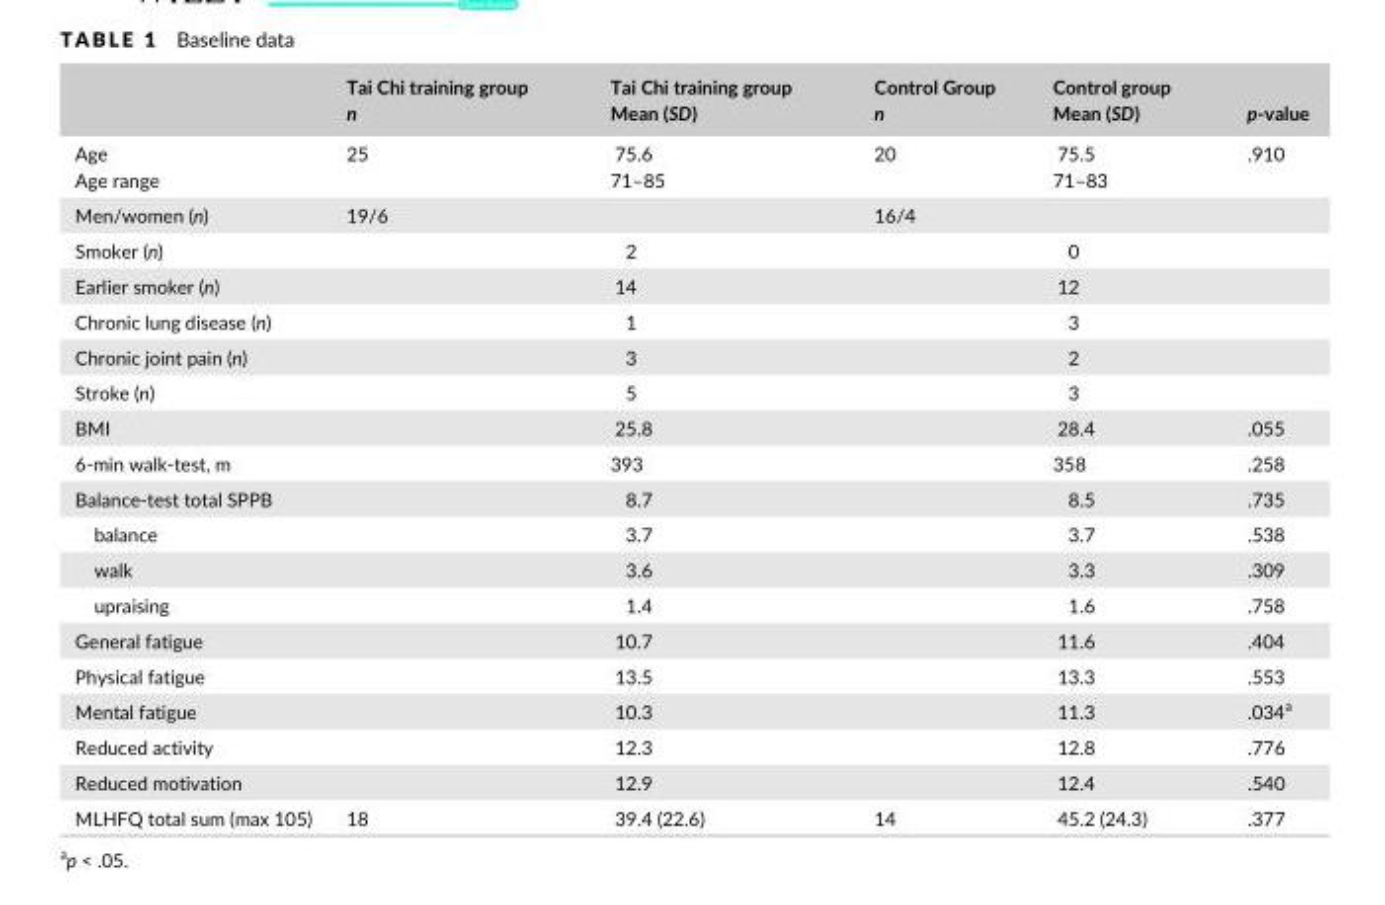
<table><thead><tr><td></td><td>Tai Chi training group n</td><td>Tai Chi training group Mean (SD)</td><td>Control Group n</td><td>Control group Mean (SD)</td><td>p- value</td></tr></thead><tbody><tr><td>Age Age range</td><td>25</td><td>75.6 71–85</td><td>20</td><td>75.5 71–83</td><td>.910</td></tr><tr><td>Men/women (n)</td><td>19/6</td><td></td><td>16/4</td><td></td><td></td></tr><tr><td>Smoker (n)</td><td></td><td>2</td><td></td><td>0</td><td></td></tr><tr><td>Earlier smoker (n)</td><td></td><td>14</td><td></td><td>12</td><td></td></tr><tr><td>Chronic lung disease (n)</td><td></td><td>1</td><td></td><td>3</td><td></td></tr><tr><td>Chronic joint pain (n)</td><td></td><td>3</td><td></td><td>2</td><td></td></tr><tr><td>Stroke (n)</td><td></td><td>5</td><td></td><td>3</td><td></td></tr><tr><td>BMI</td><td></td><td>25.8</td><td></td><td>28.4</td><td>.055</td></tr><tr><td>6- min walk- test, m</td><td></td><td>393</td><td></td><td>358</td><td>.258</td></tr><tr><td>Balance- test total SPPB</td><td></td><td>8.7</td><td></td><td>8.5</td><td>.735</td></tr><tr><td>balance</td><td></td><td>3.7</td><td></td><td>3.7</td><td>.538</td></tr><tr><td>walk</td><td></td><td>3.6</td><td></td><td>3.3</td><td>.309</td></tr><tr><td>upraising</td><td></td><td>1.4</td><td></td><td>1.6</td><td>.758</td></tr><tr><td>General fatigue</td><td></td><td>10.7</td><td></td><td>11.6</td><td>.404</td></tr><tr><td>Physical fatigue</td><td></td><td>13.5</td><td></td><td>13.3</td><td>.553</td></tr><tr><td>Mental fatigue</td><td></td><td>10.3</td><td></td><td>11.3</td><td>.034<sup>a</sup></td></tr><tr><td>Reduced activity</td><td></td><td>12.3</td><td></td><td>12.8</td><td>.776</td></tr><tr><td>Reduced motivation</td><td></td><td>12.9</td><td></td><td>12.4</td><td>.540</td></tr><tr><td>MLHFQ total sum (max 105)</td><td>18</td><td>39.4 (22.6)</td><td>14</td><td>45.2 (24.3)</td><td>.377</td></tr></tbody></table>